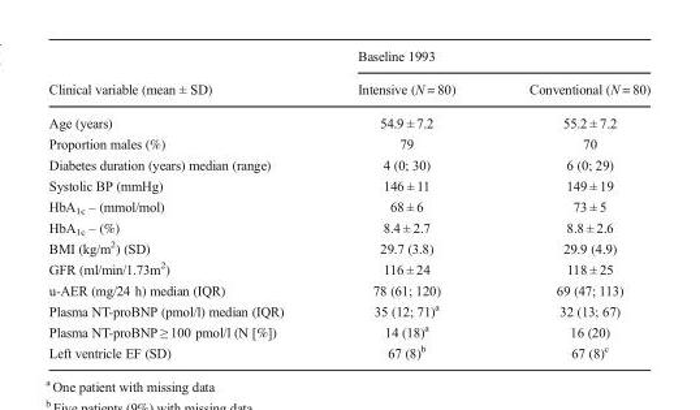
<table><thead><tr><td rowspan="2">Clinical variable (mean ± SD)</td><td colspan="2">Baseline 1993</td></tr><tr><td>Intensive (N = 80)</td><td>Conventional (N = 80)</td></tr></thead><tbody><tr><td>Age (years)</td><td>54.9 ± 7.2</td><td>55.2 ± 7.2</td></tr><tr><td>Proportion males (%)</td><td>79</td><td>70</td></tr><tr><td>Diabetes duration (years) median (range)</td><td>4 (0; 30)</td><td>6 (0; 29)</td></tr><tr><td>Systolic BP (mmHg)</td><td>146 ± 11</td><td>149 ± 19</td></tr><tr><td>HbA<sub>1c</sub> – (mmol/mol) HbA<sub>1c</sub> – (%)</td><td>68 ± 6 8.4 ± 2.7</td><td>73 ± 5 8.8 ± 2.6</td></tr><tr><td>BMI (kg/m<sup>2</sup>) (SD)</td><td>29.7 (3.8)</td><td>29.9 (4.9)</td></tr><tr><td>GFR (ml/min/1.73m<sup>2</sup>)</td><td>116 ± 24</td><td>118 ± 25</td></tr><tr><td>u-AER (mg/24 h) median (IQR)</td><td>78 (61; 120)</td><td>69 (47; 113)</td></tr><tr><td>Plasma NT-proBNP (pmol/l) median (IQR)</td><td>35 (12; 71)<sup>a</sup></td><td>32 (13; 67)</td></tr><tr><td>Plasma NT-proBNP ≥ 100 pmol/l (N [%])</td><td>14 (18)<sup>a</sup></td><td>16 (20)</td></tr><tr><td>Left ventricle EF (SD)</td><td>67 (8)<sup>b</sup></td><td>67 (8)<sup>c</sup></td></tr></tbody></table>